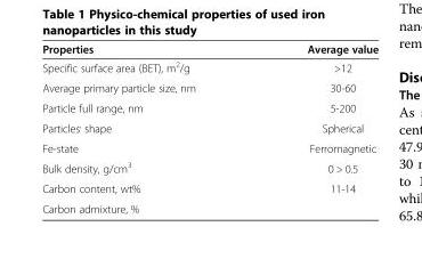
<table><thead><tr><td>Properties</td><td>Average value</td></tr></thead><tbody><tr><td>Specific surface area (BET), m<sup>2</sup>/g</td><td>&gt;12</td></tr><tr><td>Average primary particle size, nm</td><td>30-60</td></tr><tr><td>Particle full range, nm</td><td>5-200</td></tr><tr><td>Particles<sup>,</sup> shape</td><td>Spherical</td></tr><tr><td>Fe-state</td><td>Ferromagnetic</td></tr><tr><td>Bulk density, g/cm<sup>3</sup></td><td>0 &gt; 0.5</td></tr><tr><td>Carbon content, wt%</td><td>11-14</td></tr><tr><td>Carbon admixture, %</td><td></td></tr></tbody></table>